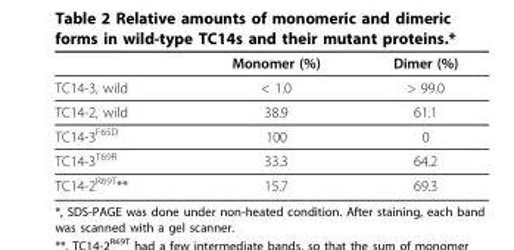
<table><thead><tr><td></td><td>Monomer (%)</td><td>Dimer (%)</td></tr></thead><tbody><tr><td>TC14-3, wild</td><td>&lt; 1.0</td><td>&gt; 99.0</td></tr><tr><td>TC14-2, wild</td><td>38.9</td><td>61.1</td></tr><tr><td>TC14-3<sup>F65D</sup></td><td>100</td><td>0</td></tr><tr><td>TC14-3<sup>T69R</sup></td><td>33.3</td><td>64.2</td></tr><tr><td>TC14-2<sup>R69T</sup>**</td><td>15.7</td><td>69.3</td></tr></tbody></table>